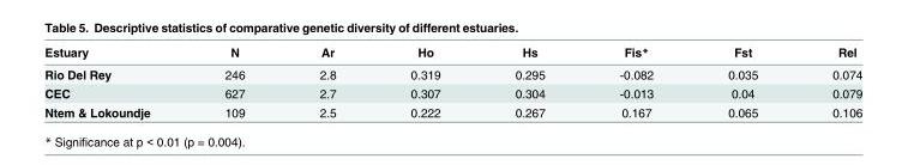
<table><thead><tr><td>Estuary</td><td>N</td><td>Ar</td><td>Ho</td><td>Hs</td><td>Fis*</td><td>Fst</td><td>Rel</td></tr></thead><tbody><tr><td>Rio Del Rey</td><td>246</td><td>2.8</td><td>0.319</td><td>0.295</td><td>-0.082</td><td>0.035</td><td>0.074</td></tr><tr><td>CEC</td><td>627</td><td>2.7</td><td>0.307</td><td>0.304</td><td>-0.013</td><td>0.04</td><td>0.079</td></tr><tr><td>Ntem &amp; Lokoundje</td><td>109</td><td>2.5</td><td>0.222</td><td>0.267</td><td>0.167</td><td>0.065</td><td>0.106</td></tr></tbody></table>